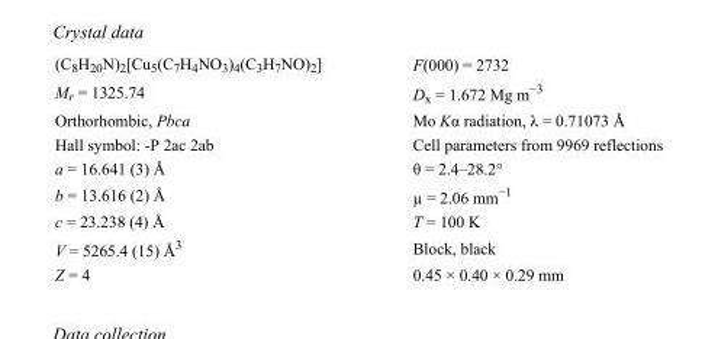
<table><tbody><tr><td>(C<sub>8</sub>H<sub>20</sub>N)<sub>2</sub>[Cu<sub>5</sub>(C<sub>7</sub>H<sub>4</sub>NO<sub>3</sub>)<sub>4</sub>(C<sub>3</sub>H<sub>7</sub>NO)<sub>2</sub>]</td><td>F(000) = 2732</td></tr><tr><td>M<sub>r</sub> = 1325.74</td><td>D<sub>x</sub> = 1.672 Mg m<sup>−3</sup></td></tr><tr><td>Orthorhombic, Pbca</td><td>Mo Kα radiation, λ = 0.71073 Å</td></tr><tr><td>Hall symbol: -P 2ac 2ab</td><td>Cell parameters from 9969 reflections</td></tr><tr><td>a = 16.641 (3) Å</td><td>θ = 2.4–28.2°</td></tr><tr><td>b = 13.616 (2) Å</td><td>µ = 2.06 mm<sup>−1</sup></td></tr><tr><td>c = 23.238 (4) Å</td><td>T = 100 K</td></tr><tr><td>V = 5265.4 (15) Å<sup>3</sup></td><td>Block, black</td></tr><tr><td>Z = 4</td><td>0.45 × 0.40 × 0.29 mm</td></tr></tbody></table>